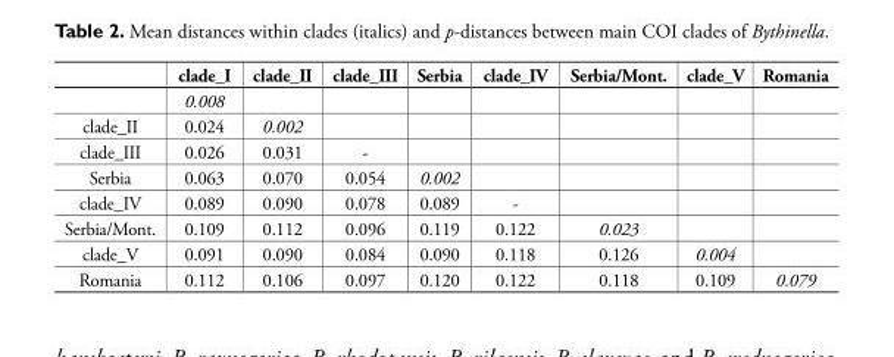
<table><thead><tr><td></td><td>clade_I</td><td>clade_II</td><td>clade_III</td><td>Serbia</td><td>clade_IV</td><td>Serbia/Mont.</td><td>clade_V</td><td>Romania</td></tr></thead><tbody><tr><td></td><td>0.008</td><td></td><td></td><td></td><td></td><td></td><td></td><td></td></tr><tr><td>clade_II</td><td>0.024</td><td>0.002</td><td></td><td></td><td></td><td></td><td></td><td></td></tr><tr><td>clade_III</td><td>0.026</td><td>0.031</td><td>-</td><td></td><td></td><td></td><td></td><td></td></tr><tr><td>Serbia</td><td>0.063</td><td>0.070</td><td>0.054</td><td>0.002</td><td></td><td></td><td></td><td></td></tr><tr><td>clade_IV</td><td>0.089</td><td>0.090</td><td>0.078</td><td>0.089</td><td>-</td><td></td><td></td><td></td></tr><tr><td>Serbia/Mont.</td><td>0.109</td><td>0.112</td><td>0.096</td><td>0.119</td><td>0.122</td><td>0.023</td><td></td><td></td></tr><tr><td>clade_V</td><td>0.091</td><td>0.090</td><td>0.084</td><td>0.090</td><td>0.118</td><td>0.126</td><td>0.004</td><td></td></tr><tr><td>Romania</td><td>0.112</td><td>0.106</td><td>0.097</td><td>0.120</td><td>0.122</td><td>0.118</td><td>0.109</td><td>0.079</td></tr></tbody></table>